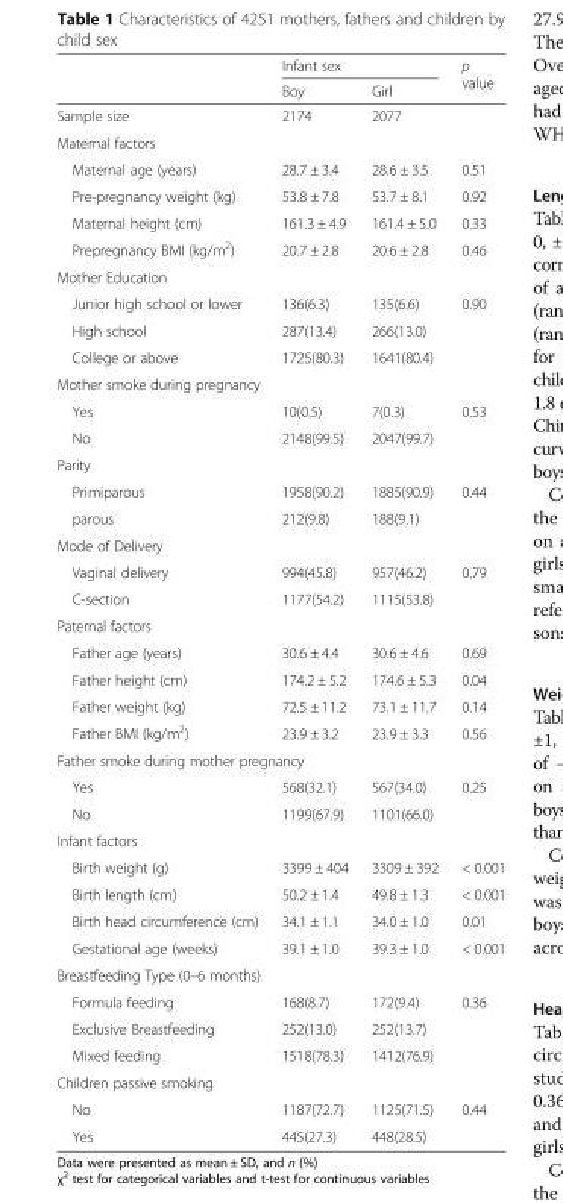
<table><thead><tr><td rowspan="2"></td><td colspan="2">Infant sex</td><td rowspan="2">p value</td></tr><tr><td>Boy</td><td>Girl</td></tr></thead><tbody><tr><td>Sample size</td><td>2174</td><td>2077</td><td></td></tr><tr><td colspan="4">Maternal factors</td></tr><tr><td>Maternal age (years)</td><td>28.7 ± 3.4</td><td>28.6 ± 3.5</td><td>0.51</td></tr><tr><td>Pre-pregnancy weight (kg)</td><td>53.8 ± 7.8</td><td>53.7 ± 8.1</td><td>0.92</td></tr><tr><td>Maternal height (cm)</td><td>161.3 ± 4.9</td><td>161.4 ± 5.0</td><td>0.33</td></tr><tr><td>Prepregnancy BMI (kg/m<sup>2</sup>)</td><td>20.7 ± 2.8</td><td>20.6 ± 2.8</td><td>0.46</td></tr><tr><td colspan="4">Mother Education</td></tr><tr><td>Junior high school or lower</td><td>136(6.3)</td><td>135(6.6)</td><td>0.90</td></tr><tr><td>High school</td><td>287(13.4)</td><td>266(13.0)</td><td></td></tr><tr><td>College or above</td><td>1725(80.3)</td><td>1641(80.4)</td><td></td></tr><tr><td colspan="4">Mother smoke during pregnancy</td></tr><tr><td>Yes</td><td>10(0.5)</td><td>7(0.3)</td><td>0.53</td></tr><tr><td>No</td><td>2148(99.5)</td><td>2047(99.7)</td><td></td></tr><tr><td colspan="4">Parity</td></tr><tr><td>Primiparous</td><td>1958(90.2)</td><td>1885(90.9)</td><td>0.44</td></tr><tr><td>parous</td><td>212(9.8)</td><td>188(9.1)</td><td></td></tr><tr><td colspan="4">Mode of Delivery</td></tr><tr><td>Vaginal delivery</td><td>994(45.8)</td><td>957(46.2)</td><td>0.79</td></tr><tr><td>C-section</td><td>1177(54.2)</td><td>1115(53.8)</td><td></td></tr><tr><td colspan="4">Paternal factors</td></tr><tr><td>Father age (years)</td><td>30.6 ± 4.4</td><td>30.6 ± 4.6</td><td>0.69</td></tr><tr><td>Father height (cm)</td><td>174.2 ± 5.2</td><td>174.6 ± 5.3</td><td>0.04</td></tr><tr><td>Father weight (kg)</td><td>72.5 ± 11.2</td><td>73.1 ± 11.7</td><td>0.14</td></tr><tr><td>Father BMI (kg/m<sup>2</sup>)</td><td>23.9 ± 3.2</td><td>23.9 ± 3.3</td><td>0.56</td></tr><tr><td colspan="4">Father smoke during mother pregnancy</td></tr><tr><td>Yes</td><td>568(32.1)</td><td>567(34.0)</td><td>0.25</td></tr><tr><td>No</td><td>1199(67.9)</td><td>1101(66.0)</td><td></td></tr><tr><td colspan="4">Infant factors</td></tr><tr><td>Birth weight (g)</td><td>3399 ± 404</td><td>3309 ± 392</td><td>&lt; 0.001</td></tr><tr><td>Birth length (cm)</td><td>50.2 ± 1.4</td><td>49.8 ± 1.3</td><td>&lt; 0.001</td></tr><tr><td>Birth head circumference (cm)</td><td>34.1 ± 1.1</td><td>34.0 ± 1.0</td><td>0.01</td></tr><tr><td>Gestational age (weeks)</td><td>39.1 ± 1.0</td><td>39.3 ± 1.0</td><td>&lt; 0.001</td></tr><tr><td colspan="4">Breastfeeding Type (0–6 months)</td></tr><tr><td>Formula feeding</td><td>168(8.7)</td><td>172(9.4)</td><td>0.36</td></tr><tr><td>Exclusive Breastfeeding</td><td>252(13.0)</td><td>252(13.7)</td><td></td></tr><tr><td>Mixed feeding</td><td>1518(78.3)</td><td>1412(76.9)</td><td></td></tr><tr><td colspan="4">Children passive smoking</td></tr><tr><td>No</td><td>1187(72.7)</td><td>1125(71.5)</td><td>0.44</td></tr><tr><td>Yes</td><td>445(27.3)</td><td>448(28.5)</td><td></td></tr></tbody></table>